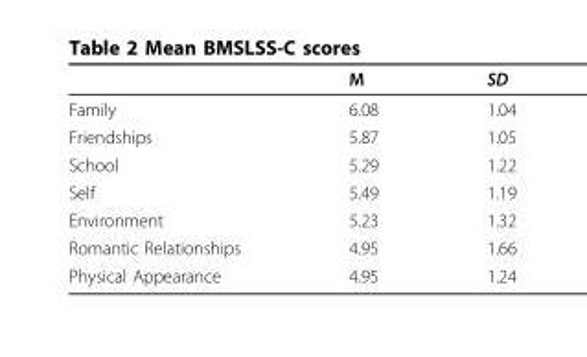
<table><thead><tr><td></td><td>M</td><td>SD</td></tr></thead><tbody><tr><td>Family</td><td>6.08</td><td>1.04</td></tr><tr><td>Friendships</td><td>5.87</td><td>1.05</td></tr><tr><td>School</td><td>5.29</td><td>1.22</td></tr><tr><td>Self</td><td>5.49</td><td>1.19</td></tr><tr><td>Environment</td><td>5.23</td><td>1.32</td></tr><tr><td>Romantic Relationships</td><td>4.95</td><td>1.66</td></tr><tr><td>Physical Appearance</td><td>4.95</td><td>1.24</td></tr></tbody></table>